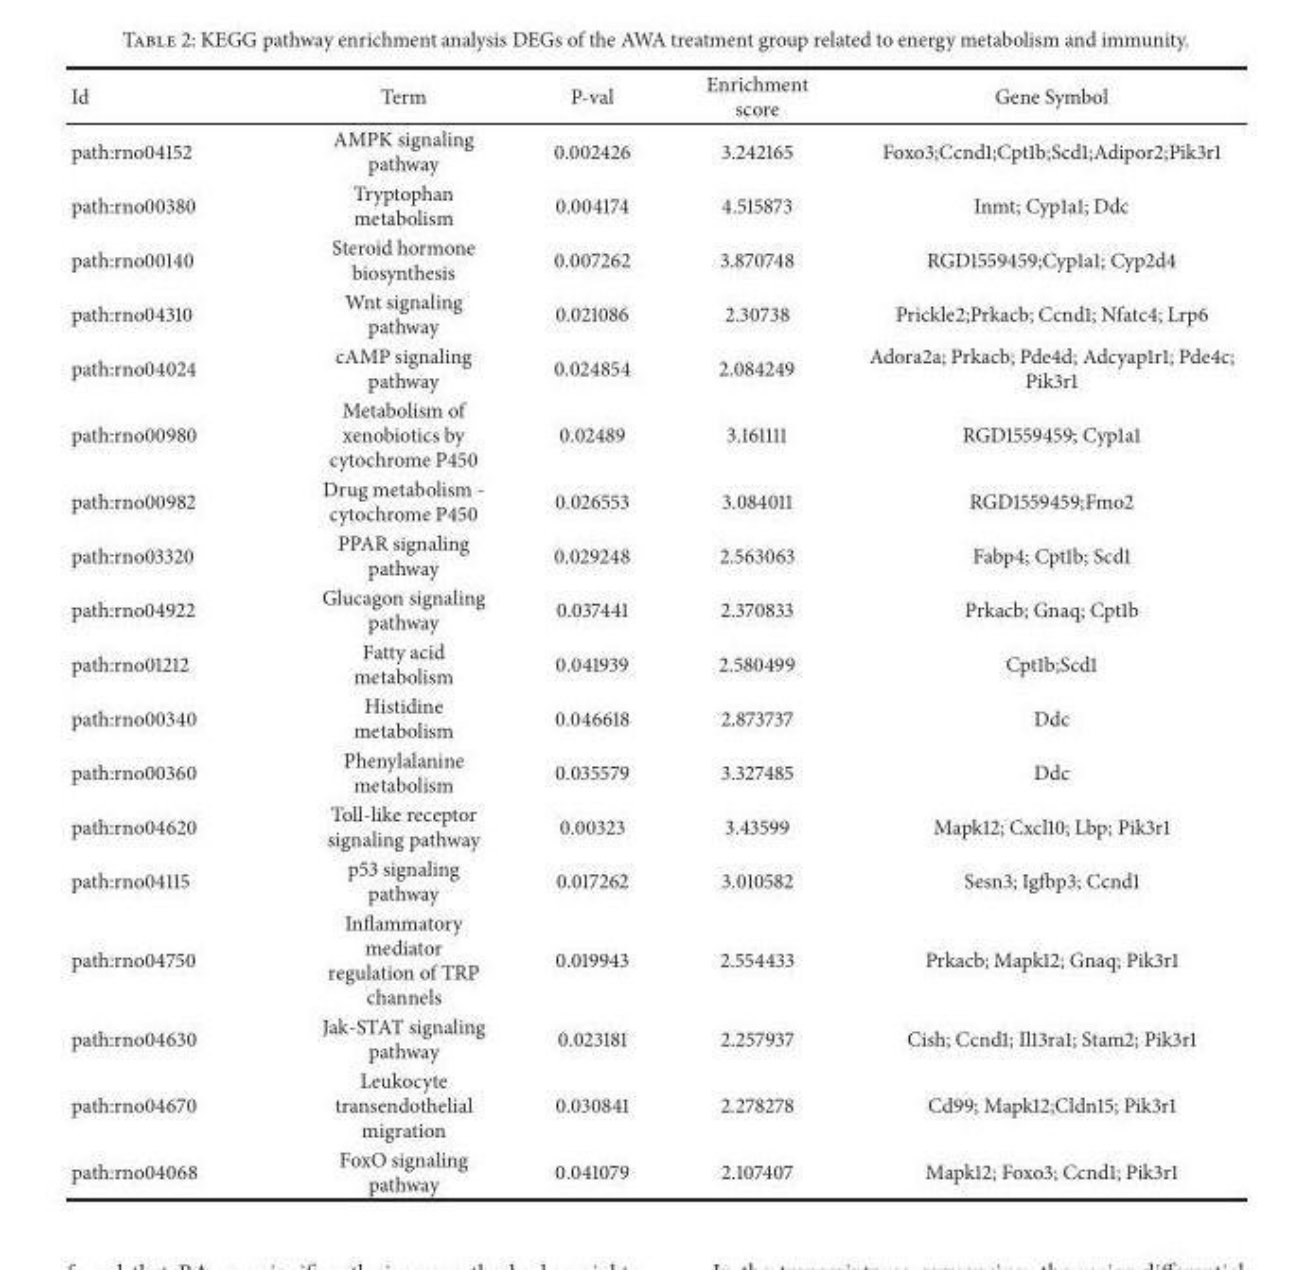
<table><thead><tr><td>Id</td><td>Term</td><td>P-val</td><td>Enrichment score</td><td>Gene Symbol</td></tr></thead><tbody><tr><td>path:rno04152</td><td>AMPK signaling pathway</td><td>0.002426</td><td>3.242165</td><td>Foxo3;Ccnd1;Cpt1b;Scd1;Adipor2;Pik3r1</td></tr><tr><td>path:rno00380</td><td>Tryptophan metabolism</td><td>0.004174</td><td>4.515873</td><td>Inmt; Cyp1a1; Ddc</td></tr><tr><td>path:rno00140</td><td>Steroid hormone biosynthesis</td><td>0.007262</td><td>3.870748</td><td>RGD1559459;Cyp1a1; Cyp2d4</td></tr><tr><td>path:rno04310</td><td>Wnt signaling pathway</td><td>0.021086</td><td>2.30738</td><td>Prickle2;Prkacb; Ccnd1; Nfatc4; Lrp6</td></tr><tr><td>path:rno04024</td><td>cAMP signaling pathway</td><td>0.024854</td><td>2.084249</td><td>Adora2a; Prkacb; Pde4d; Adcyap1r1; Pde4c; Pik3r1</td></tr><tr><td>path:rno00980</td><td>Metabolism of xenobiotics by cytochrome P450</td><td>0.02489</td><td>3.161111</td><td>RGD1559459; Cyp1a1</td></tr><tr><td>path:rno00982</td><td>Drug metabolism - cytochrome P450</td><td>0.026553</td><td>3.084011</td><td>RGD1559459;Fmo2</td></tr><tr><td>path:rno03320</td><td>PPAR signaling pathway</td><td>0.029248</td><td>2.563063</td><td>Fabp4; Cpt1b; Scd1</td></tr><tr><td>path:rno04922</td><td>Glucagon signaling pathway</td><td>0.037441</td><td>2.370833</td><td>Prkacb; Gnaq; Cpt1b</td></tr><tr><td>path:rno01212</td><td>Fatty acid metabolism</td><td>0.041939</td><td>2.580499</td><td>Cpt1b;Scd1</td></tr><tr><td>path:rno00340</td><td>Histidine metabolism</td><td>0.046618</td><td>2.873737</td><td>Ddc</td></tr><tr><td>path:rno00360</td><td>Phenylalanine metabolism</td><td>0.035579</td><td>3.327485</td><td>Ddc</td></tr><tr><td>path:rno04620</td><td>Toll-like receptor signaling pathway</td><td>0.00323</td><td>3.43599</td><td>Mapk12; Cxcl10; Lbp; Pik3r1</td></tr><tr><td>path:rno04115</td><td>p53 signaling pathway</td><td>0.017262</td><td>3.010582</td><td>Sesn3; Igfbp3; Ccnd1</td></tr><tr><td>path:rno04750</td><td>Inflammatory mediator regulation of TRP channels</td><td>0.019943</td><td>2.554433</td><td>Prkacb; Mapk12; Gnaq; Pik3r1</td></tr><tr><td>path:rno04630</td><td>Jak-STAT signaling pathway</td><td>0.023181</td><td>2.257937</td><td>Cish; Ccnd1; Il13ra1; Stam2; Pik3r1</td></tr><tr><td>path:rno04670</td><td>Leukocyte transendothelial migration</td><td>0.030841</td><td>2.278278</td><td>Cd99; Mapk12;Cldn15; Pik3r1</td></tr><tr><td>path:rno04068</td><td>FoxO signaling pathway</td><td>0.041079</td><td>2.107407</td><td>Mapk12; Foxo3; Ccnd1; Pik3r1</td></tr></tbody></table>